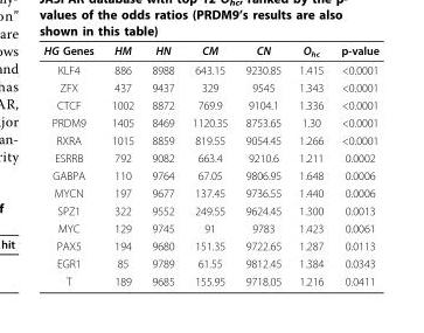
<table><thead><tr><td>HG Genes</td><td>HM</td><td>HN</td><td>CM</td><td>CN</td><td>O<sub>hc</sub></td><td>p-value</td></tr></thead><tbody><tr><td>KLF4</td><td>886</td><td>8988</td><td>643.15</td><td>9230.85</td><td>1.415</td><td>&lt;0.0001</td></tr><tr><td>ZFX</td><td>437</td><td>9437</td><td>329</td><td>9545</td><td>1.343</td><td>&lt;0.0001</td></tr><tr><td>CTCF</td><td>1002</td><td>8872</td><td>769.9</td><td>9104.1</td><td>1.336</td><td>&lt;0.0001</td></tr><tr><td>PRDM9</td><td>1405</td><td>8469</td><td>1120.35</td><td>8753.65</td><td>1.30</td><td>&lt;0.0001</td></tr><tr><td>RXRA</td><td>1015</td><td>8859</td><td>819.55</td><td>9054.45</td><td>1.266</td><td>&lt;0.0001</td></tr><tr><td>ESRRB</td><td>792</td><td>9082</td><td>663.4</td><td>9210.6</td><td>1.211</td><td>0.0002</td></tr><tr><td>GABPA</td><td>110</td><td>9764</td><td>67.05</td><td>9806.95</td><td>1.648</td><td>0.0006</td></tr><tr><td>MYCN</td><td>197</td><td>9677</td><td>137.45</td><td>9736.55</td><td>1.440</td><td>0.0006</td></tr><tr><td>SPZ1</td><td>322</td><td>9552</td><td>249.55</td><td>9624.45</td><td>1.300</td><td>0.0013</td></tr><tr><td>MYC</td><td>129</td><td>9745</td><td>91</td><td>9783</td><td>1.423</td><td>0.0061</td></tr><tr><td>PAX5</td><td>194</td><td>9680</td><td>151.35</td><td>9722.65</td><td>1.287</td><td>0.0113</td></tr><tr><td>EGR1</td><td>85</td><td>9789</td><td>61.55</td><td>9812.45</td><td>1.384</td><td>0.0343</td></tr><tr><td>T</td><td>189</td><td>9685</td><td>155.95</td><td>9718.05</td><td>1.216</td><td>0.0411</td></tr></tbody></table>